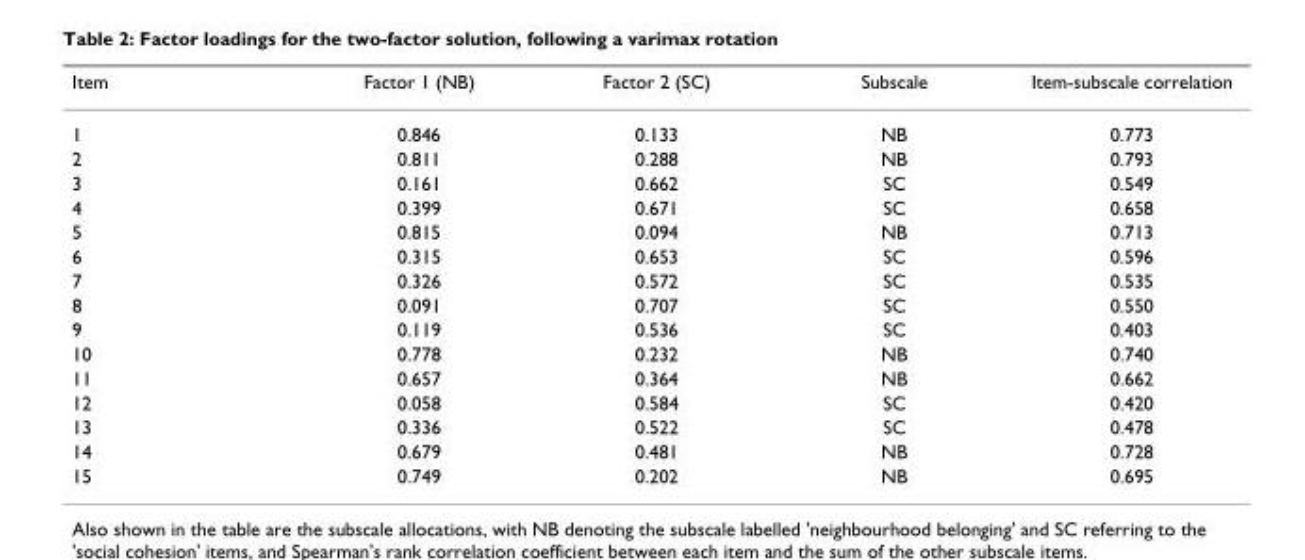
<table><thead><tr><td>Item</td><td>Factor 1 (NB)</td><td>Factor 2 (SC)</td><td>Subscale</td><td>Item-subscale correlation</td></tr></thead><tbody><tr><td>1</td><td>0.846</td><td>0.133</td><td>NB</td><td>0.773</td></tr><tr><td>2</td><td>0.811</td><td>0.288</td><td>NB</td><td>0.793</td></tr><tr><td>3</td><td>0.161</td><td>0.662</td><td>SC</td><td>0.549</td></tr><tr><td>4</td><td>0.399</td><td>0.671</td><td>SC</td><td>0.658</td></tr><tr><td>5</td><td>0.815</td><td>0.094</td><td>NB</td><td>0.713</td></tr><tr><td>6</td><td>0.315</td><td>0.653</td><td>SC</td><td>0.596</td></tr><tr><td>7</td><td>0.326</td><td>0.572</td><td>SC</td><td>0.535</td></tr><tr><td>8</td><td>0.091</td><td>0.707</td><td>SC</td><td>0.550</td></tr><tr><td>9</td><td>0.119</td><td>0.536</td><td>SC</td><td>0.403</td></tr><tr><td>10</td><td>0.778</td><td>0.232</td><td>NB</td><td>0.740</td></tr><tr><td>11</td><td>0.657</td><td>0.364</td><td>NB</td><td>0.662</td></tr><tr><td>12</td><td>0.058</td><td>0.584</td><td>SC</td><td>0.420</td></tr><tr><td>13</td><td>0.336</td><td>0.522</td><td>SC</td><td>0.478</td></tr><tr><td>14</td><td>0.679</td><td>0.481</td><td>NB</td><td>0.728</td></tr><tr><td>15</td><td>0.749</td><td>0.202</td><td>NB</td><td>0.695</td></tr></tbody></table>